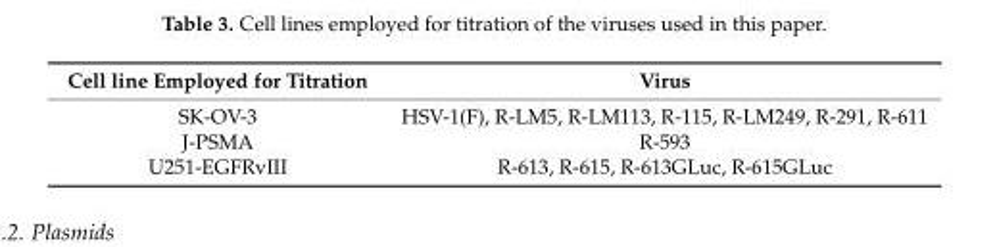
<table><thead><tr><td>Cell line Employed for Titration</td><td>Virus</td></tr></thead><tbody><tr><td>SK-OV-3</td><td>HSV-1(F), R-LM5, R-LM113, R-115, R-LM249, R-291, R-611</td></tr><tr><td>J-PSMA</td><td>R-593</td></tr><tr><td>U251-EGFRvIII</td><td>R-613, R-615, R-613GLuc, R-615GLuc</td></tr></tbody></table>